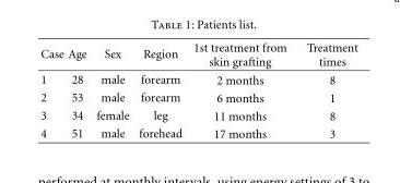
<table><thead><tr><td>Case</td><td>Age</td><td>Sex</td><td>Region</td><td>1st treatment from skin grafting</td><td>Treatment times</td></tr></thead><tbody><tr><td>1</td><td>28</td><td>male</td><td>forearm</td><td>2 months</td><td>8</td></tr><tr><td>2</td><td>53</td><td>male</td><td>forearm</td><td>6 months</td><td>1</td></tr><tr><td>3</td><td>34</td><td>female</td><td>leg</td><td>11 months</td><td>8</td></tr><tr><td>4</td><td>51</td><td>male</td><td>forehead</td><td>17 months</td><td>3</td></tr></tbody></table>